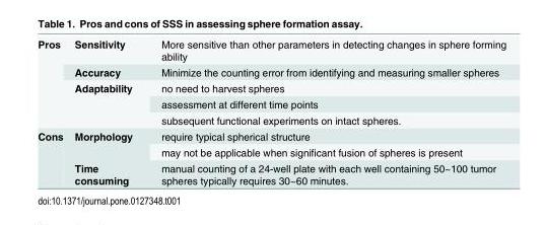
<table><tbody><tr><td rowspan="5">Pros</td><td>Sensitivity</td><td>More sensitive than other parameters in detecting changes in sphere forming ability</td></tr><tr><td>Accuracy</td><td>Minimize the counting error from identifying and measuring smaller spheres</td></tr><tr><td rowspan="3">Adaptability</td><td>no need to harvest spheres</td></tr><tr><td>assessment at different time points</td></tr><tr><td>subsequent functional experiments on intact spheres.</td></tr><tr><td rowspan="3">Cons</td><td rowspan="2">Morphology</td><td>require typical spherical structure</td></tr><tr><td>may not be applicable when significant fusion of spheres is present</td></tr><tr><td>Time consuming</td><td>manual counting of a 24-well plate with each well containing 50~100 tumor spheres typically requires 30~60 minutes.</td></tr></tbody></table>